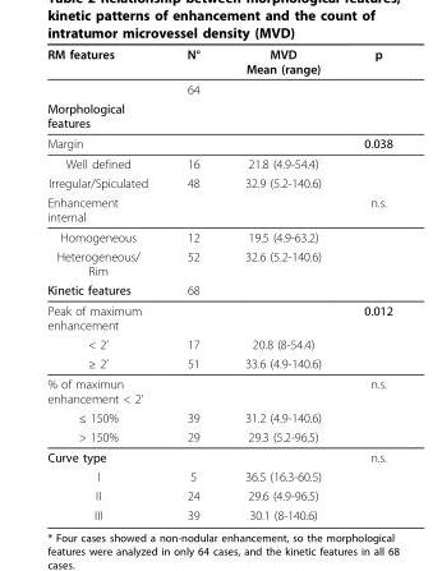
<table><thead><tr><td rowspan="2">RM features</td><td rowspan="2">N° 64</td><td rowspan="2">MVD Mean (range)</td><td rowspan="2">p</td></tr><tr></tr></thead><tbody><tr><td colspan="4">Morphological features</td></tr><tr><td>Margin</td><td></td><td></td><td>0.038</td></tr><tr><td>Well defined</td><td>16</td><td>21.8 (4.9-54.4)</td><td></td></tr><tr><td>Irregular/Spiculated</td><td>48</td><td>32.9 (5.2-140.6)</td><td></td></tr><tr><td>Enhancement internal</td><td></td><td></td><td>n.s.</td></tr><tr><td>Homogeneous</td><td>12</td><td>19.5 (4.9-63.2)</td><td></td></tr><tr><td>Heterogeneous/ Rim</td><td>52</td><td>32.6 (5.2-140.6)</td><td></td></tr><tr><td>Kinetic features</td><td>68</td><td></td><td></td></tr><tr><td>Peak of maximum enhancement</td><td></td><td></td><td>0.012</td></tr><tr><td>&lt; 2’</td><td>17</td><td>20.8 (8-54.4)</td><td></td></tr><tr><td>≥ 2’</td><td>51</td><td>33.6 (4.9-140.6)</td><td></td></tr><tr><td>% of maximun enhancement &lt; 2’</td><td></td><td></td><td>n.s.</td></tr><tr><td>≤ 150%</td><td>39</td><td>31.2 (4.9-140.6)</td><td></td></tr><tr><td>&gt; 150%</td><td>29</td><td>29.3 (5.2-96.5)</td><td></td></tr><tr><td>Curve type</td><td></td><td></td><td>n.s.</td></tr><tr><td>I</td><td>5</td><td>36.5 (16.3-60.5)</td><td></td></tr><tr><td>II</td><td>24</td><td>29.6 (4.9-96.5)</td><td></td></tr><tr><td>III</td><td>39</td><td>30.1 (8-140.6)</td><td></td></tr></tbody></table>